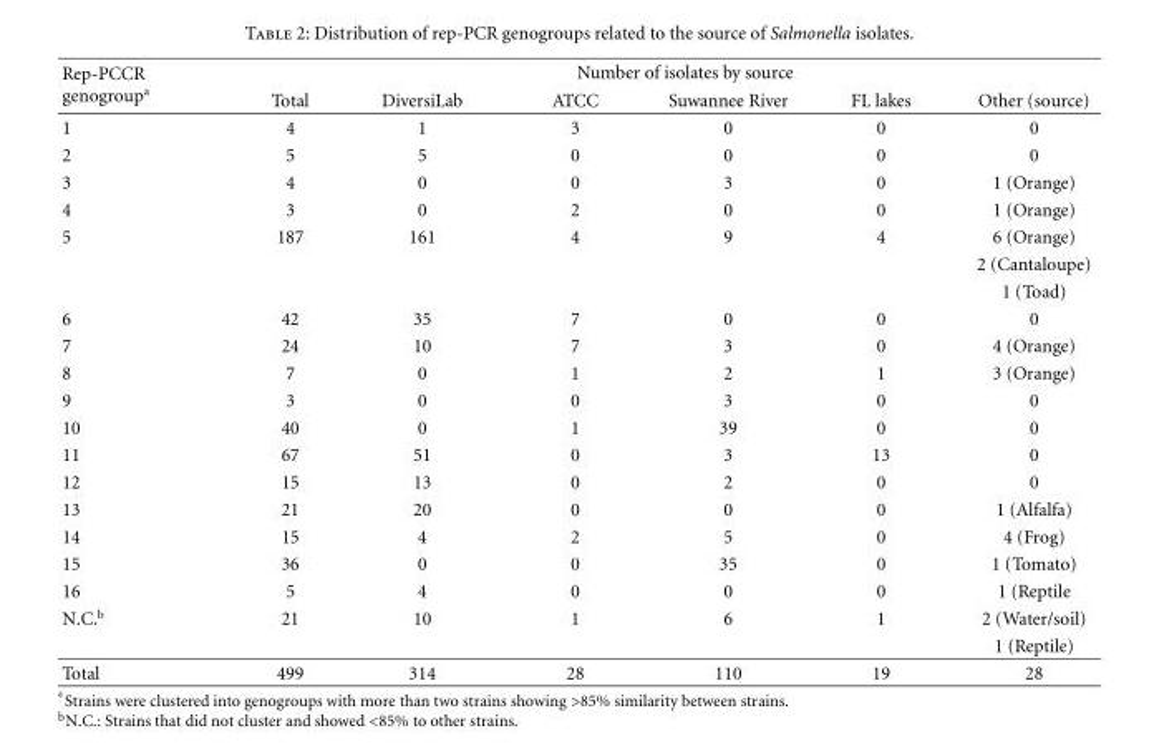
<table><thead><tr><td rowspan="2">Rep-PCCR genogroup<sup>a</sup></td><td colspan="6">Number of isolates by source</td></tr><tr><td>Total</td><td>DiversiLab</td><td>ATCC</td><td>Suwannee River</td><td>FL lakes</td><td>Other (source)</td></tr></thead><tbody><tr><td>1</td><td>4</td><td>1</td><td>3</td><td>0</td><td>0</td><td>0</td></tr><tr><td>2</td><td>5</td><td>5</td><td>0</td><td>0</td><td>0</td><td>0</td></tr><tr><td>3</td><td>4</td><td>0</td><td>0</td><td>3</td><td>0</td><td>1 (Orange)</td></tr><tr><td>4</td><td>3</td><td>0</td><td>2</td><td>0</td><td>0</td><td>1 (Orange)</td></tr><tr><td rowspan="3">5</td><td>187</td><td>161</td><td>4</td><td>9</td><td>4</td><td>6 (Orange)</td></tr><tr><td></td><td></td><td></td><td></td><td></td><td>2 (Cantaloupe)</td></tr><tr><td></td><td></td><td></td><td></td><td></td><td>1 (Toad)</td></tr><tr><td>6</td><td>42</td><td>35</td><td>7</td><td>0</td><td>0</td><td>0</td></tr><tr><td>7</td><td>24</td><td>10</td><td>7</td><td>3</td><td>0</td><td>4 (Orange)</td></tr><tr><td>8</td><td>7</td><td>0</td><td>1</td><td>2</td><td>1</td><td>3 (Orange)</td></tr><tr><td>9</td><td>3</td><td>0</td><td>0</td><td>3</td><td>0</td><td>0</td></tr><tr><td>10</td><td>40</td><td>0</td><td>1</td><td>39</td><td>0</td><td>0</td></tr><tr><td>11</td><td>67</td><td>51</td><td>0</td><td>3</td><td>13</td><td>0</td></tr><tr><td>12</td><td>15</td><td>13</td><td>0</td><td>2</td><td>0</td><td>0</td></tr><tr><td>13</td><td>21</td><td>20</td><td>0</td><td>0</td><td>0</td><td>1 (Alfalfa)</td></tr><tr><td>14</td><td>15</td><td>4</td><td>2</td><td>5</td><td>0</td><td>4 (Frog)</td></tr><tr><td>15</td><td>36</td><td>0</td><td>0</td><td>35</td><td>0</td><td>1 (Tomato)</td></tr><tr><td>16</td><td>5</td><td>4</td><td>0</td><td>0</td><td>0</td><td>1 (Reptile</td></tr><tr><td rowspan="2">N.C.<sup>b</sup></td><td>21</td><td>10</td><td>1</td><td>6</td><td>1</td><td>2 (Water/soil)</td></tr><tr><td></td><td></td><td></td><td></td><td></td><td>1 (Reptile)</td></tr><tr><td>Total</td><td>499</td><td>314</td><td>28</td><td>110</td><td>19</td><td>28</td></tr></tbody></table>